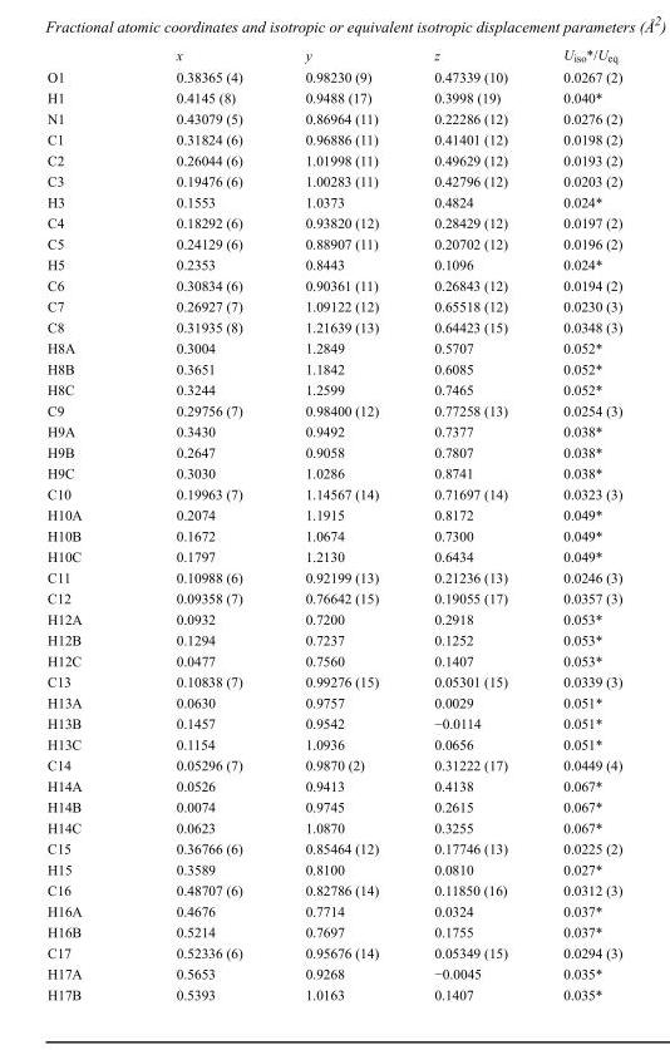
<table><thead><tr><td></td><td>x</td><td>y</td><td>z</td><td>U<sub>iso</sub>*/U<sub>eq</sub></td></tr></thead><tbody><tr><td>O1</td><td>0.38365 (4)</td><td>0.98230 (9)</td><td>0.47339 (10)</td><td>0.0267 (2)</td></tr><tr><td>H1</td><td>0.4145 (8)</td><td>0.9488 (17)</td><td>0.3998 (19)</td><td>0.040*</td></tr><tr><td>N1</td><td>0.43079 (5)</td><td>0.86964 (11)</td><td>0.22286 (12)</td><td>0.0276 (2)</td></tr><tr><td>C1</td><td>0.31824 (6)</td><td>0.96886 (11)</td><td>0.41401 (12)</td><td>0.0198 (2)</td></tr><tr><td>C2</td><td>0.26044 (6)</td><td>1.01998 (11)</td><td>0.49629 (12)</td><td>0.0193 (2)</td></tr><tr><td>C3</td><td>0.19476 (6)</td><td>1.00283 (11)</td><td>0.42796 (12)</td><td>0.0203 (2)</td></tr><tr><td>H3</td><td>0.1553</td><td>1.0373</td><td>0.4824</td><td>0.024*</td></tr><tr><td>C4</td><td>0.18292 (6)</td><td>0.93820 (12)</td><td>0.28429 (12)</td><td>0.0197 (2)</td></tr><tr><td>C5</td><td>0.24129 (6)</td><td>0.88907 (11)</td><td>0.20702 (12)</td><td>0.0196 (2)</td></tr><tr><td>H5</td><td>0.2353</td><td>0.8443</td><td>0.1096</td><td>0.024*</td></tr><tr><td>C6</td><td>0.30834 (6)</td><td>0.90361 (11)</td><td>0.26843 (12)</td><td>0.0194 (2)</td></tr><tr><td>C7</td><td>0.26927 (7)</td><td>1.09122 (12)</td><td>0.65518 (12)</td><td>0.0230 (3)</td></tr><tr><td>C8</td><td>0.31935 (8)</td><td>1.21639 (13)</td><td>0.64423 (15)</td><td>0.0348 (3)</td></tr><tr><td>H8A</td><td>0.3004</td><td>1.2849</td><td>0.5707</td><td>0.052*</td></tr><tr><td>H8B</td><td>0.3651</td><td>1.1842</td><td>0.6085</td><td>0.052*</td></tr><tr><td>H8C</td><td>0.3244</td><td>1.2599</td><td>0.7465</td><td>0.052*</td></tr><tr><td>C9</td><td>0.29756 (7)</td><td>0.98400 (12)</td><td>0.77258 (13)</td><td>0.0254 (3)</td></tr><tr><td>H9A</td><td>0.3430</td><td>0.9492</td><td>0.7377</td><td>0.038*</td></tr><tr><td>H9B</td><td>0.2647</td><td>0.9058</td><td>0.7807</td><td>0.038*</td></tr><tr><td>H9C</td><td>0.3030</td><td>1.0286</td><td>0.8741</td><td>0.038*</td></tr><tr><td>C10</td><td>0.19963 (7)</td><td>1.14567 (14)</td><td>0.71697 (14)</td><td>0.0323 (3)</td></tr><tr><td>H10A</td><td>0.2074</td><td>1.1915</td><td>0.8172</td><td>0.049*</td></tr><tr><td>H10B</td><td>0.1672</td><td>1.0674</td><td>0.7300</td><td>0.049*</td></tr><tr><td>H10C</td><td>0.1797</td><td>1.2130</td><td>0.6434</td><td>0.049*</td></tr><tr><td>C11</td><td>0.10988 (6)</td><td>0.92199 (13)</td><td>0.21236 (13)</td><td>0.0246 (3)</td></tr><tr><td>C12</td><td>0.09358 (7)</td><td>0.76642 (15)</td><td>0.19055 (17)</td><td>0.0357 (3)</td></tr><tr><td>H12A</td><td>0.0932</td><td>0.7200</td><td>0.2918</td><td>0.053*</td></tr><tr><td>H12B</td><td>0.1294</td><td>0.7237</td><td>0.1252</td><td>0.053*</td></tr><tr><td>H12C</td><td>0.0477</td><td>0.7560</td><td>0.1407</td><td>0.053*</td></tr><tr><td>C13</td><td>0.10838 (7)</td><td>0.99276 (15)</td><td>0.05301 (15)</td><td>0.0339 (3)</td></tr><tr><td>H13A</td><td>0.0630</td><td>0.9757</td><td>0.0029</td><td>0.051*</td></tr><tr><td>H13B</td><td>0.1457</td><td>0.9542</td><td>−0.0114</td><td>0.051*</td></tr><tr><td>H13C</td><td>0.1154</td><td>1.0936</td><td>0.0656</td><td>0.051*</td></tr><tr><td>C14</td><td>0.05296 (7)</td><td>0.9870 (2)</td><td>0.31222 (17)</td><td>0.0449 (4)</td></tr><tr><td>H14A</td><td>0.0526</td><td>0.9413</td><td>0.4138</td><td>0.067*</td></tr><tr><td>H14B</td><td>0.0074</td><td>0.9745</td><td>0.2615</td><td>0.067*</td></tr><tr><td>H14C</td><td>0.0623</td><td>1.0870</td><td>0.3255</td><td>0.067*</td></tr><tr><td>C15</td><td>0.36766 (6)</td><td>0.85464 (12)</td><td>0.17746 (13)</td><td>0.0225 (2)</td></tr><tr><td>H15</td><td>0.3589</td><td>0.8100</td><td>0.0810</td><td>0.027*</td></tr><tr><td>C16</td><td>0.48707 (6)</td><td>0.82786 (14)</td><td>0.11850 (16)</td><td>0.0312 (3)</td></tr><tr><td>H16A</td><td>0.4676</td><td>0.7714</td><td>0.0324</td><td>0.037*</td></tr><tr><td>H16B</td><td>0.5214</td><td>0.7697</td><td>0.1755</td><td>0.037*</td></tr><tr><td>C17</td><td>0.52336 (6)</td><td>0.95676 (14)</td><td>0.05349 (15)</td><td>0.0294 (3)</td></tr><tr><td>H17A</td><td>0.5653</td><td>0.9268</td><td>−0.0045</td><td>0.035*</td></tr><tr><td>H17B</td><td>0.5393</td><td>1.0163</td><td>0.1407</td><td>0.035*</td></tr></tbody></table>